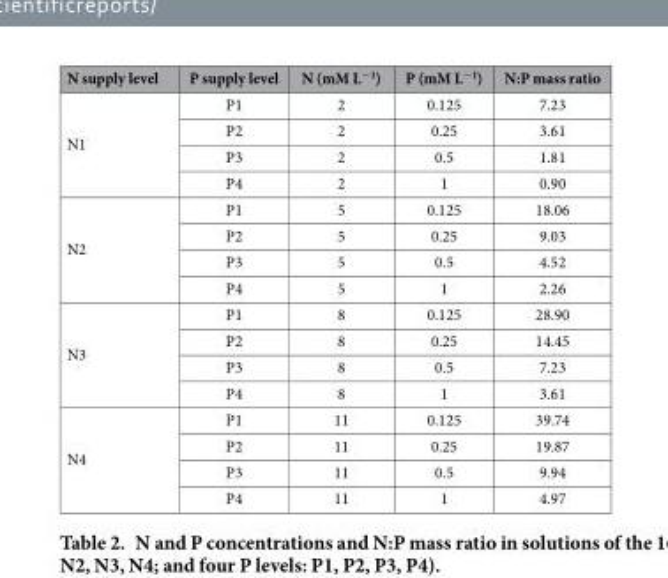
<table><thead><tr><td>N supply level</td><td>P supply level</td><td>N (mM L<sup>−1</sup>)</td><td>P (mM L<sup>−1</sup>)</td><td>N:P mass ratio</td></tr></thead><tbody><tr><td rowspan="4">N1</td><td>P1</td><td>2</td><td>0.125</td><td>7.23</td></tr><tr><td>P2</td><td>2</td><td>0.25</td><td>3.61</td></tr><tr><td>P3</td><td>2</td><td>0.5</td><td>1.81</td></tr><tr><td>P4</td><td>2</td><td>1</td><td>0.90</td></tr><tr><td rowspan="4">N2</td><td>P1</td><td>5</td><td>0.125</td><td>18.06</td></tr><tr><td>P2</td><td>5</td><td>0.25</td><td>9.03</td></tr><tr><td>P3</td><td>5</td><td>0.5</td><td>4.52</td></tr><tr><td>P4</td><td>5</td><td>1</td><td>2.26</td></tr><tr><td rowspan="4">N3</td><td>P1</td><td>8</td><td>0.125</td><td>28.90</td></tr><tr><td>P2</td><td>8</td><td>0.25</td><td>14.45</td></tr><tr><td>P3</td><td>8</td><td>0.5</td><td>7.23</td></tr><tr><td>P4</td><td>8</td><td>1</td><td>3.61</td></tr><tr><td rowspan="4">N4</td><td>P1</td><td>11</td><td>0.125</td><td>39.74</td></tr><tr><td>P2</td><td>11</td><td>0.25</td><td>19.87</td></tr><tr><td>P3</td><td>11</td><td>0.5</td><td>9.94</td></tr><tr><td>P4</td><td>11</td><td>1</td><td>4.97</td></tr></tbody></table>